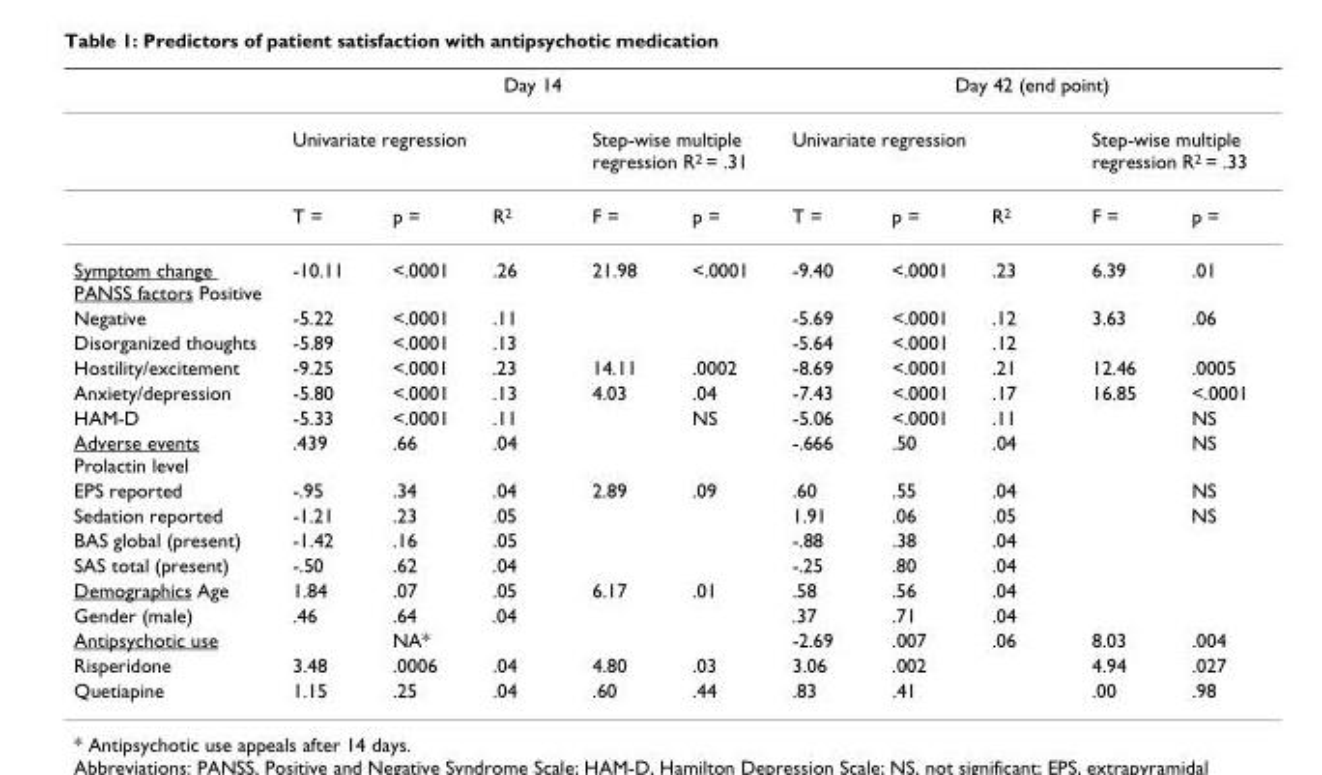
<table><thead><tr><td rowspan="3"></td><td colspan="5">Day 14</td><td colspan="5">Day 42 (end point)</td></tr><tr><td colspan="3">Univariate regression</td><td colspan="2">Step-wise multiple regression R<sup>2</sup> = .31</td><td colspan="3">Univariate regression</td><td colspan="2">Step-wise multiple regression R<sup>2</sup> = .33</td></tr><tr><td>T =</td><td>p =</td><td>R<sup>2</sup></td><td>F =</td><td>p =</td><td>T =</td><td>p =</td><td>R<sup>2</sup></td><td>F =</td><td>p =</td></tr></thead><tbody><tr><td>Symptom change PANSS factors Positive</td><td>-10.11</td><td>&lt;.0001</td><td>.26</td><td>21.98</td><td>&lt;.0001</td><td>-9.40</td><td>&lt;.0001</td><td>.23</td><td>6.39</td><td>.01</td></tr><tr><td>Negative</td><td>-5.22</td><td>&lt;.0001</td><td>.11</td><td></td><td></td><td>-5.69</td><td>&lt;.0001</td><td>.12</td><td>3.63</td><td>.06</td></tr><tr><td>Disorganized thoughts</td><td>-5.89</td><td>&lt;.0001</td><td>.13</td><td></td><td></td><td>-5.64</td><td>&lt;.0001</td><td>.12</td><td></td><td></td></tr><tr><td>Hostility/excitement</td><td>-9.25</td><td>&lt;.0001</td><td>.23</td><td>14.11</td><td>.0002</td><td>-8.69</td><td>&lt;.0001</td><td>.21</td><td>12.46</td><td>.0005</td></tr><tr><td>Anxiety/depression</td><td>-5.80</td><td>&lt;.0001</td><td>.13</td><td>4.03</td><td>.04</td><td>-7.43</td><td>&lt;.0001</td><td>.17</td><td>16.85</td><td>&lt;.0001</td></tr><tr><td>HAM-D</td><td>-5.33</td><td>&lt;.0001</td><td>.11</td><td></td><td>NS</td><td>-5.06</td><td>&lt;.0001</td><td>.11</td><td></td><td>NS</td></tr><tr><td>Adverse events Prolactin level</td><td>.439</td><td>.66</td><td>.04</td><td></td><td></td><td>-.666</td><td>.50</td><td>.04</td><td></td><td>NS</td></tr><tr><td>EPS reported</td><td>-.95</td><td>.34</td><td>.04</td><td>2.89</td><td>.09</td><td>.60</td><td>.55</td><td>.04</td><td></td><td>NS</td></tr><tr><td>Sedation reported</td><td>-1.21</td><td>.23</td><td>.05</td><td></td><td></td><td>1.91</td><td>.06</td><td>.05</td><td></td><td>NS</td></tr><tr><td>BAS global (present)</td><td>-1.42</td><td>.16</td><td>.05</td><td></td><td></td><td>-.88</td><td>.38</td><td>.04</td><td></td><td></td></tr><tr><td>SAS total (present)</td><td>-.50</td><td>.62</td><td>.04</td><td></td><td></td><td>-.25</td><td>.80</td><td>.04</td><td></td><td></td></tr><tr><td>Demographics Age</td><td>1.84</td><td>.07</td><td>.05</td><td>6.17</td><td>.01</td><td>.58</td><td>.56</td><td>.04</td><td></td><td></td></tr><tr><td>Gender (male)</td><td>.46</td><td>.64</td><td>.04</td><td></td><td></td><td>.37</td><td>.71</td><td>.04</td><td></td><td></td></tr><tr><td>Antipsychotic use</td><td></td><td>NA*</td><td></td><td></td><td></td><td>-2.69</td><td>.007</td><td>.06</td><td>8.03</td><td>.004</td></tr><tr><td>Risperidone</td><td>3.48</td><td>.0006</td><td>.04</td><td>4.80</td><td>.03</td><td>3.06</td><td>.002</td><td></td><td>4.94</td><td>.027</td></tr><tr><td>Quetiapine</td><td>1.15</td><td>.25</td><td>.04</td><td>.60</td><td>.44</td><td>.83</td><td>.41</td><td></td><td>.00</td><td>.98</td></tr></tbody></table>